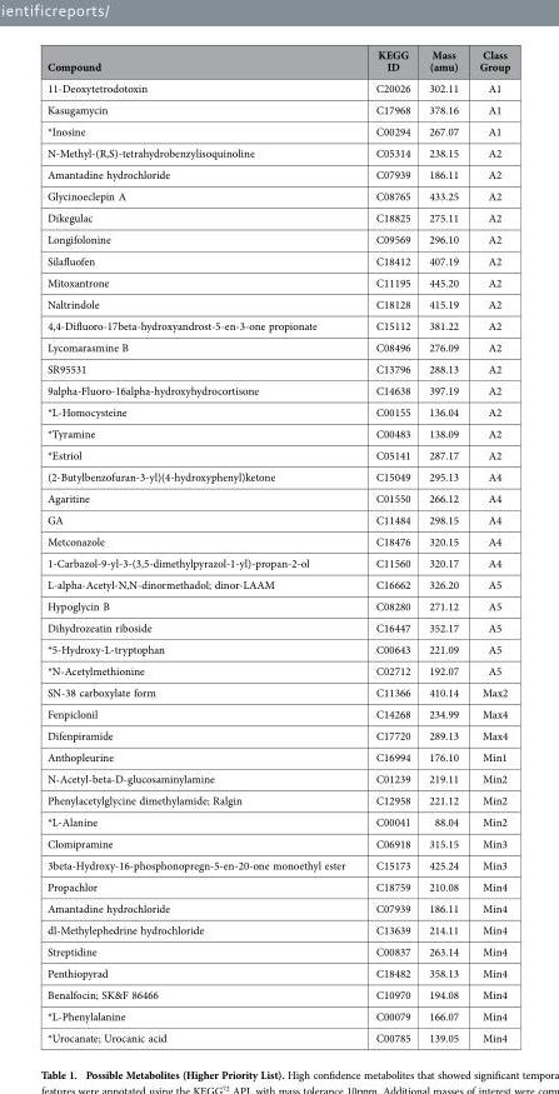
<table><thead><tr><td>Compound</td><td>KEGG ID</td><td>Mass (amu)</td><td>Class Group</td></tr></thead><tbody><tr><td>11-Deoxytetrodotoxin</td><td>C20026</td><td>302.11</td><td>A1</td></tr><tr><td>Kasugamycin</td><td>C17968</td><td>378.16</td><td>A1</td></tr><tr><td>*Inosine</td><td>C00294</td><td>267.07</td><td>A1</td></tr><tr><td>N-Methyl-(R,S)-tetrahydrobenzylisoquinoline</td><td>C05314</td><td>238.15</td><td>A2</td></tr><tr><td>Amantadine hydrochloride</td><td>C07939</td><td>186.11</td><td>A2</td></tr><tr><td>Glycinoeclepin A</td><td>C08765</td><td>433.25</td><td>A2</td></tr><tr><td>Dikegulac</td><td>C18825</td><td>275.11</td><td>A2</td></tr><tr><td>Longifolonine</td><td>C09569</td><td>296.10</td><td>A2</td></tr><tr><td>Silafluofen</td><td>C18412</td><td>407.19</td><td>A2</td></tr><tr><td>Mitoxantrone</td><td>C11195</td><td>445.20</td><td>A2</td></tr><tr><td>Naltrindole</td><td>C18128</td><td>415.19</td><td>A2</td></tr><tr><td>4,4-Difluoro-17beta-hydroxyandrost-5-en-3-one propionate</td><td>C15112</td><td>381.22</td><td>A2</td></tr><tr><td>Lycomarasmine B</td><td>C08496</td><td>276.09</td><td>A2</td></tr><tr><td>SR95531</td><td>C13796</td><td>288.13</td><td>A2</td></tr><tr><td>9alpha-Fluoro-16alpha-hydroxyhydrocortisone</td><td>C14638</td><td>397.19</td><td>A2</td></tr><tr><td>*L-Homocysteine</td><td>C00155</td><td>136.04</td><td>A2</td></tr><tr><td>*Tyramine</td><td>C00483</td><td>138.09</td><td>A2</td></tr><tr><td>*Estriol</td><td>C05141</td><td>287.17</td><td>A2</td></tr><tr><td>(2-Butylbenzofuran-3-yl)(4-hydroxyphenyl)ketone</td><td>C15049</td><td>295.13</td><td>A4</td></tr><tr><td>Agaritine</td><td>C01550</td><td>266.12</td><td>A4</td></tr><tr><td>GA</td><td>C11484</td><td>298.15</td><td>A4</td></tr><tr><td>Metconazole</td><td>C18476</td><td>320.15</td><td>A4</td></tr><tr><td>1-Carbazol-9-yl-3-(3,5-dimethylpyrazol-1-yl)-propan-2-ol</td><td>C11560</td><td>320.17</td><td>A4</td></tr><tr><td>L-alpha-Acetyl-N,N-dinormethadol; dinor-LAAM</td><td>C16662</td><td>326.20</td><td>A5</td></tr><tr><td>Hypoglycin B</td><td>C08280</td><td>271.12</td><td>A5</td></tr><tr><td>Dihydrozeatin riboside</td><td>C16447</td><td>352.17</td><td>A5</td></tr><tr><td>*5-Hydroxy-L-tryptophan</td><td>C00643</td><td>221.09</td><td>A5</td></tr><tr><td>*N-Acetylmethionine</td><td>C02712</td><td>192.07</td><td>A5</td></tr><tr><td>SN-38 carboxylate form</td><td>C11366</td><td>410.14</td><td>Max2</td></tr><tr><td>Fenpiclonil</td><td>C14268</td><td>234.99</td><td>Max4</td></tr><tr><td>Difenpiramide</td><td>C17720</td><td>289.13</td><td>Max4</td></tr><tr><td>Anthopleurine</td><td>C16994</td><td>176.10</td><td>Min1</td></tr><tr><td>N-Acetyl-beta-D-glucosaminylamine</td><td>C01239</td><td>219.11</td><td>Min2</td></tr><tr><td>Phenylacetylglycine dimethylamide; Ralgin</td><td>C12958</td><td>221.12</td><td>Min2</td></tr><tr><td>*L-Alanine</td><td>C00041</td><td>88.04</td><td>Min2</td></tr><tr><td>Clomipramine</td><td>C06918</td><td>315.15</td><td>Min3</td></tr><tr><td>3beta-Hydroxy-16-phosphonopregn-5-en-20-one monoethyl ester</td><td>C15173</td><td>425.24</td><td>Min3</td></tr><tr><td>Propachlor</td><td>C18759</td><td>210.08</td><td>Min4</td></tr><tr><td>Amantadine hydrochloride</td><td>C07939</td><td>186.11</td><td>Min4</td></tr><tr><td>dl-Methylephedrine hydrochloride</td><td>C13639</td><td>214.11</td><td>Min4</td></tr><tr><td>Streptidine</td><td>C00837</td><td>263.14</td><td>Min4</td></tr><tr><td>Penthiopyrad</td><td>C18482</td><td>358.13</td><td>Min4</td></tr><tr><td>Benalfocin; SK&amp;F 86466</td><td>C10970</td><td>194.08</td><td>Min4</td></tr><tr><td>*L-Phenylalanine</td><td>C00079</td><td>166.07</td><td>Min4</td></tr><tr><td>*Urocanate; Urocanic acid</td><td>C00785</td><td>139.05</td><td>Min4</td></tr></tbody></table>